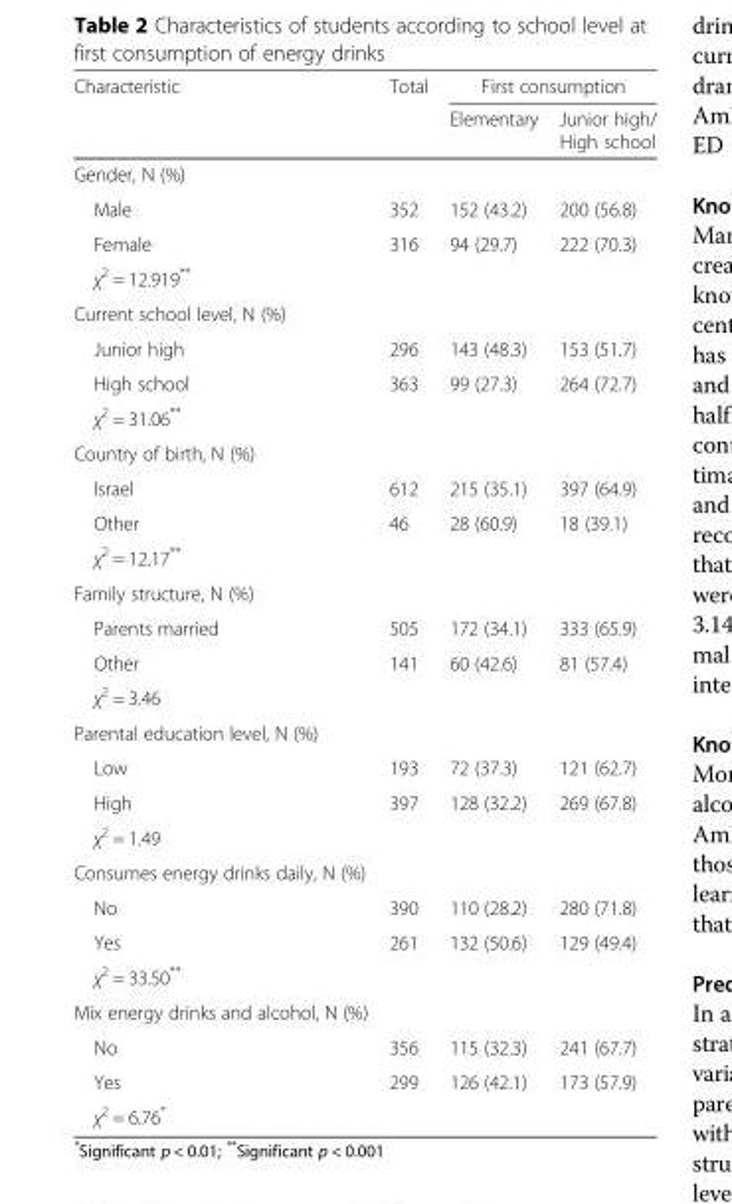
<table><thead><tr><td rowspan="2">Characteristic</td><td rowspan="2">Total</td><td colspan="2">First consumption</td></tr><tr><td>Elementary</td><td>Junior high/ High school</td></tr></thead><tbody><tr><td colspan="4">Gender, N (%)</td></tr><tr><td>Male</td><td>352</td><td>152 (43.2)</td><td>200 (56.8)</td></tr><tr><td>Female</td><td>316</td><td>94 (29.7)</td><td>222 (70.3)</td></tr><tr><td colspan="4">χ<sup>2</sup> = 12.919**</td></tr><tr><td colspan="4">Current school level, N (%)</td></tr><tr><td>Junior high</td><td>296</td><td>143 (48.3)</td><td>153 (51.7)</td></tr><tr><td>High school</td><td>363</td><td>99 (27.3)</td><td>264 (72.7)</td></tr><tr><td colspan="4">χ<sup>2</sup> = 31.06**</td></tr><tr><td colspan="4">Country of birth, N (%)</td></tr><tr><td>Israel</td><td>612</td><td>215 (35.1)</td><td>397 (64.9)</td></tr><tr><td>Other</td><td>46</td><td>28 (60.9)</td><td>18 (39.1)</td></tr><tr><td colspan="4">χ<sup>2</sup> = 12.17**</td></tr><tr><td colspan="4">Family structure, N (%)</td></tr><tr><td>Parents married</td><td>505</td><td>172 (34.1)</td><td>333 (65.9)</td></tr><tr><td>Other</td><td>141</td><td>60 (42.6)</td><td>81 (57.4)</td></tr><tr><td colspan="4">χ<sup>2</sup> = 3.46</td></tr><tr><td colspan="4">Parental education level, N (%)</td></tr><tr><td>Low</td><td>193</td><td>72 (37.3)</td><td>121 (62.7)</td></tr><tr><td>High</td><td>397</td><td>128 (32.2)</td><td>269 (67.8)</td></tr><tr><td colspan="4">χ<sup>2</sup> = 1.49</td></tr><tr><td colspan="4">Consumes energy drinks daily, N (%)</td></tr><tr><td>No</td><td>390</td><td>110 (28.2)</td><td>280 (71.8)</td></tr><tr><td>Yes</td><td>261</td><td>132 (50.6)</td><td>129 (49.4)</td></tr><tr><td colspan="4">χ<sup>2</sup> = 33.50**</td></tr><tr><td colspan="4">Mix energy drinks and alcohol, N (%)</td></tr><tr><td>No</td><td>356</td><td>115 (32.3)</td><td>241 (67.7)</td></tr><tr><td>Yes</td><td>299</td><td>126 (42.1)</td><td>173 (57.9)</td></tr><tr><td>χ<sup>2</sup> = 6.76*</td><td></td><td></td><td></td></tr></tbody></table>